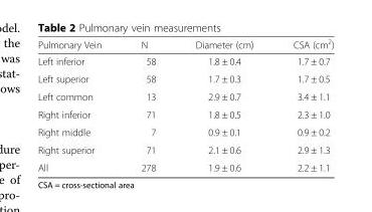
<table><thead><tr><td>Pulmonary Vein</td><td>N</td><td>Diameter (cm)</td><td>CSA (cm<sup>2</sup>)</td></tr></thead><tbody><tr><td>Left inferior</td><td>58</td><td>1.8 ± 0.4</td><td>1.7 ± 0.7</td></tr><tr><td>Left superior</td><td>58</td><td>1.7 ± 0.3</td><td>1.7 ± 0.5</td></tr><tr><td>Left common</td><td>13</td><td>2.9 ± 0.7</td><td>3.4 ± 1.1</td></tr><tr><td>Right inferior</td><td>71</td><td>1.8 ± 0.5</td><td>2.3 ± 1.0</td></tr><tr><td>Right middle</td><td>7</td><td>0.9 ± 0.1</td><td>0.9 ± 0.2</td></tr><tr><td>Right superior</td><td>71</td><td>2.1 ± 0.6</td><td>2.9 ± 1.3</td></tr><tr><td>All</td><td>278</td><td>1.9 ± 0.6</td><td>2.2 ± 1.1</td></tr></tbody></table>